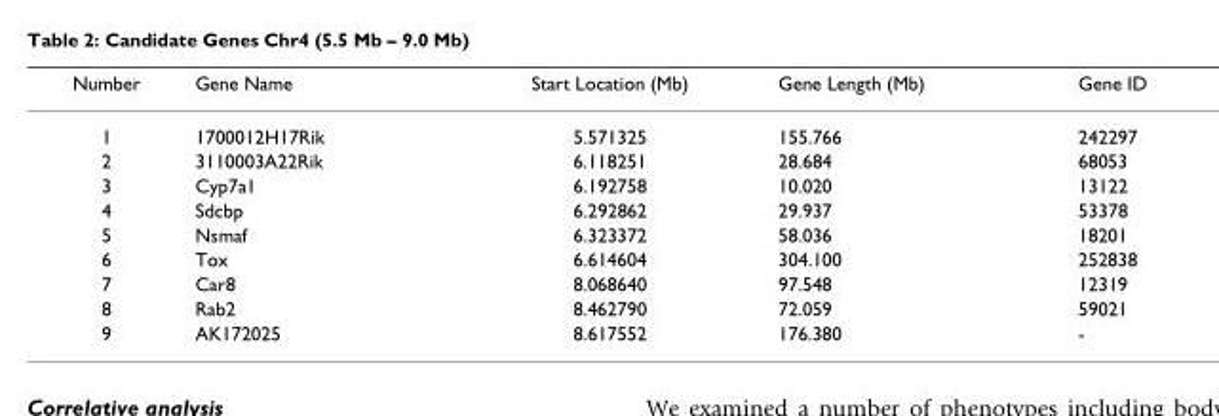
<table><thead><tr><td>Number</td><td>Gene Name</td><td>Start Location (Mb)</td><td>Gene Length (Mb)</td><td>Gene ID</td></tr></thead><tbody><tr><td>1</td><td>1700012H17Rik</td><td>5.571325</td><td>155.766</td><td>242297</td></tr><tr><td>2</td><td>3110003A22Rik</td><td>6.118251</td><td>28.684</td><td>68053</td></tr><tr><td>3</td><td>Cyp7a1</td><td>6.192758</td><td>10.020</td><td>13122</td></tr><tr><td>4</td><td>Sdcbp</td><td>6.292862</td><td>29.937</td><td>53378</td></tr><tr><td>5</td><td>Nsmaf</td><td>6.323372</td><td>58.036</td><td>18201</td></tr><tr><td>6</td><td>Tox</td><td>6.614604</td><td>304.100</td><td>252838</td></tr><tr><td>7</td><td>Car8</td><td>8.068640</td><td>97.548</td><td>12319</td></tr><tr><td>8</td><td>Rab2</td><td>8.462790</td><td>72.059</td><td>59021</td></tr><tr><td>9</td><td>AK172025</td><td>8.617552</td><td>176.380</td><td>-</td></tr></tbody></table>